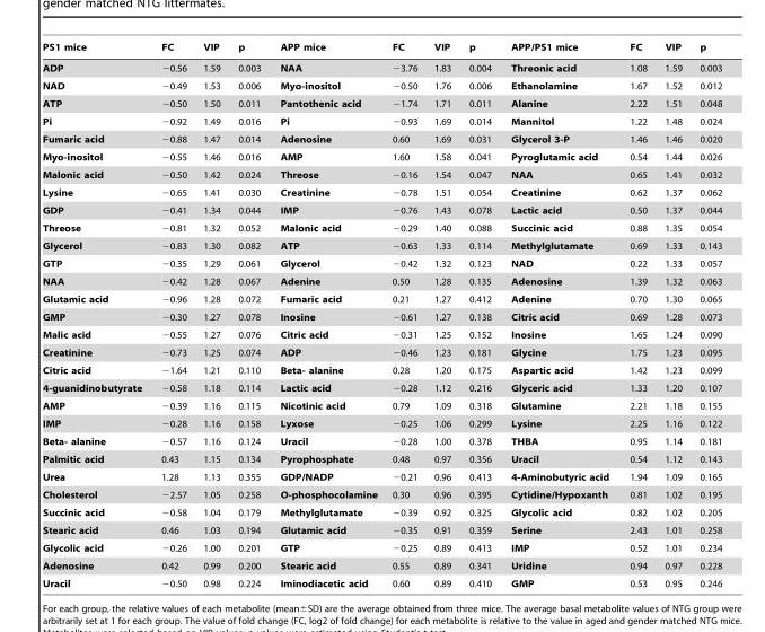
<table><thead><tr><td>PS1 mice</td><td>FC</td><td>VIP</td><td>p</td><td>APP mice</td><td>FC</td><td>VIP</td><td>p</td><td>APP/PS1 mice</td><td>FC</td><td>VIP</td><td>p</td></tr></thead><tbody><tr><td>ADP</td><td>−0.56</td><td>1.59</td><td>0.003</td><td>NAA</td><td>−3.76</td><td>1.83</td><td>0.004</td><td>Threonic acid</td><td>1.08</td><td>1.59</td><td>0.003</td></tr><tr><td>NAD</td><td>−0.49</td><td>1.53</td><td>0.006</td><td>Myo-inositol</td><td>−0.50</td><td>1.76</td><td>0.006</td><td>Ethanolamine</td><td>1.67</td><td>1.52</td><td>0.012</td></tr><tr><td>ATP</td><td>−0.50</td><td>1.50</td><td>0.011</td><td>Pantothenic acid</td><td>−1.74</td><td>1.71</td><td>0.011</td><td>Alanine</td><td>2.22</td><td>1.51</td><td>0.048</td></tr><tr><td>Pi</td><td>−0.92</td><td>1.49</td><td>0.016</td><td>Pi</td><td>−0.93</td><td>1.69</td><td>0.014</td><td>Mannitol</td><td>1.22</td><td>1.48</td><td>0.024</td></tr><tr><td>Fumaric acid</td><td>−0.88</td><td>1.47</td><td>0.014</td><td>Adenosine</td><td>0.60</td><td>1.69</td><td>0.031</td><td>Glycerol 3-P</td><td>1.46</td><td>1.46</td><td>0.020</td></tr><tr><td>Myo-inositol</td><td>−0.55</td><td>1.46</td><td>0.016</td><td>AMP</td><td>1.60</td><td>1.58</td><td>0.041</td><td>Pyroglutamic acid</td><td>0.54</td><td>1.44</td><td>0.026</td></tr><tr><td>Malonic acid</td><td>−0.50</td><td>1.42</td><td>0.024</td><td>Threose</td><td>−0.16</td><td>1.54</td><td>0.047</td><td>NAA</td><td>0.65</td><td>1.41</td><td>0.032</td></tr><tr><td>Lysine</td><td>−0.65</td><td>1.41</td><td>0.030</td><td>Creatinine</td><td>−0.78</td><td>1.51</td><td>0.054</td><td>Creatinine</td><td>0.62</td><td>1.37</td><td>0.062</td></tr><tr><td>GDP</td><td>−0.41</td><td>1.34</td><td>0.044</td><td>IMP</td><td>−0.76</td><td>1.43</td><td>0.078</td><td>Lactic acid</td><td>0.50</td><td>1.37</td><td>0.044</td></tr><tr><td>Threose</td><td>−0.81</td><td>1.32</td><td>0.052</td><td>Malonic acid</td><td>−0.29</td><td>1.40</td><td>0.088</td><td>Succinic acid</td><td>0.88</td><td>1.35</td><td>0.054</td></tr><tr><td>Glycerol</td><td>−0.83</td><td>1.30</td><td>0.082</td><td>ATP</td><td>−0.63</td><td>1.33</td><td>0.114</td><td>Methylglutamate</td><td>0.69</td><td>1.33</td><td>0.143</td></tr><tr><td>GTP</td><td>−0.35</td><td>1.29</td><td>0.061</td><td>Glycerol</td><td>−0.42</td><td>1.32</td><td>0.123</td><td>NAD</td><td>0.22</td><td>1.33</td><td>0.057</td></tr><tr><td>NAA</td><td>−0.42</td><td>1.28</td><td>0.067</td><td>Adenine</td><td>0.50</td><td>1.28</td><td>0.135</td><td>Adenosine</td><td>1.39</td><td>1.32</td><td>0.063</td></tr><tr><td>Glutamic acid</td><td>−0.96</td><td>1.28</td><td>0.072</td><td>Fumaric acid</td><td>0.21</td><td>1.27</td><td>0.412</td><td>Adenine</td><td>0.70</td><td>1.30</td><td>0.065</td></tr><tr><td>GMP</td><td>−0.30</td><td>1.27</td><td>0.078</td><td>Inosine</td><td>−0.61</td><td>1.27</td><td>0.138</td><td>Citric acid</td><td>0.69</td><td>1.28</td><td>0.073</td></tr><tr><td>Malic acid</td><td>−0.55</td><td>1.27</td><td>0.076</td><td>Citric acid</td><td>−0.31</td><td>1.25</td><td>0.152</td><td>Inosine</td><td>1.65</td><td>1.24</td><td>0.090</td></tr><tr><td>Creatinine</td><td>−0.73</td><td>1.25</td><td>0.074</td><td>ADP</td><td>−0.46</td><td>1.23</td><td>0.181</td><td>Glycine</td><td>1.75</td><td>1.23</td><td>0.095</td></tr><tr><td>Citric acid</td><td>−1.64</td><td>1.21</td><td>0.110</td><td>Beta- alanine</td><td>0.28</td><td>1.20</td><td>0.175</td><td>Aspartic acid</td><td>1.42</td><td>1.23</td><td>0.099</td></tr><tr><td>4-guanidinobutyrate</td><td>−0.58</td><td>1.18</td><td>0.114</td><td>Lactic acid</td><td>−0.28</td><td>1.12</td><td>0.216</td><td>Glyceric acid</td><td>1.33</td><td>1.20</td><td>0.107</td></tr><tr><td>AMP</td><td>−0.39</td><td>1.16</td><td>0.115</td><td>Nicotinic acid</td><td>0.79</td><td>1.09</td><td>0.318</td><td>Glutamine</td><td>2.21</td><td>1.18</td><td>0.155</td></tr><tr><td>IMP</td><td>−0.28</td><td>1.16</td><td>0.158</td><td>Lyxose</td><td>−0.25</td><td>1.06</td><td>0.299</td><td>Lysine</td><td>2.25</td><td>1.16</td><td>0.122</td></tr><tr><td>Beta- alanine</td><td>−0.57</td><td>1.16</td><td>0.124</td><td>Uracil</td><td>−0.28</td><td>1.00</td><td>0.378</td><td>THBA</td><td>0.95</td><td>1.14</td><td>0.181</td></tr><tr><td>Palmitic acid</td><td>0.43</td><td>1.15</td><td>0.134</td><td>Pyrophosphate</td><td>0.48</td><td>0.97</td><td>0.356</td><td>Uracil</td><td>0.54</td><td>1.12</td><td>0.143</td></tr><tr><td>Urea</td><td>1.28</td><td>1.13</td><td>0.355</td><td>GDP/NADP</td><td>−0.21</td><td>0.96</td><td>0.413</td><td>4-Aminobutyric acid</td><td>1.94</td><td>1.09</td><td>0.165</td></tr><tr><td>Cholesterol</td><td>−2.57</td><td>1.05</td><td>0.258</td><td>O-phosphocolamine</td><td>0.30</td><td>0.96</td><td>0.395</td><td>Cytidine/Hypoxanth</td><td>0.81</td><td>1.02</td><td>0.195</td></tr><tr><td>Succinic acid</td><td>−0.58</td><td>1.04</td><td>0.179</td><td>Methylglutamate</td><td>−0.39</td><td>0.92</td><td>0.325</td><td>Glycolic acid</td><td>0.82</td><td>1.02</td><td>0.205</td></tr><tr><td>Stearic acid</td><td>0.46</td><td>1.03</td><td>0.194</td><td>Glutamic acid</td><td>−0.35</td><td>0.91</td><td>0.359</td><td>Serine</td><td>2.43</td><td>1.01</td><td>0.258</td></tr><tr><td>Glycolic acid</td><td>−0.26</td><td>1.00</td><td>0.201</td><td>GTP</td><td>−0.25</td><td>0.89</td><td>0.413</td><td>IMP</td><td>0.52</td><td>1.01</td><td>0.234</td></tr><tr><td>Adenosine</td><td>0.42</td><td>0.99</td><td>0.200</td><td>Stearic acid</td><td>0.55</td><td>0.89</td><td>0.341</td><td>Uridine</td><td>0.94</td><td>0.97</td><td>0.228</td></tr><tr><td>Uracil</td><td>−0.50</td><td>0.98</td><td>0.224</td><td>Iminodiacetic acid</td><td>0.60</td><td>0.89</td><td>0.410</td><td>GMP</td><td>0.53</td><td>0.95</td><td>0.246</td></tr></tbody></table>